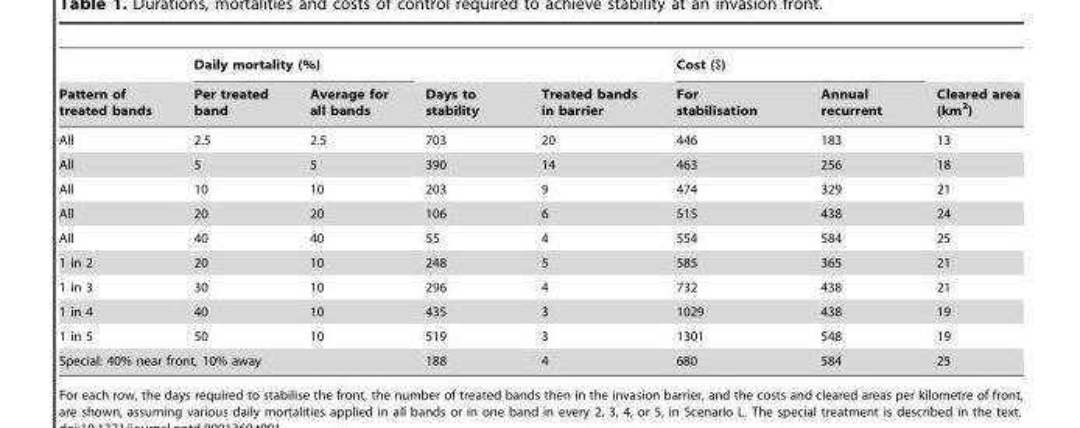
<table><thead><tr><td rowspan="2">Pattern of treated bands</td><td colspan="2">Daily mortality (%)</td><td rowspan="2">Days to stability</td><td rowspan="2">Treated bands in barrier</td><td colspan="2">Cost ($)</td><td rowspan="2">Cleared area (km<sup>2</sup>)</td></tr><tr><td>Per treated band</td><td>Average for all bands</td><td>For stabilisation</td><td>Annual recurrent</td></tr></thead><tbody><tr><td>All</td><td>2.5</td><td>2.5</td><td>703</td><td>20</td><td>446</td><td>183</td><td>13</td></tr><tr><td>All</td><td>5</td><td>5</td><td>390</td><td>14</td><td>463</td><td>256</td><td>18</td></tr><tr><td>All</td><td>10</td><td>10</td><td>203</td><td>9</td><td>474</td><td>329</td><td>21</td></tr><tr><td>All</td><td>20</td><td>20</td><td>106</td><td>6</td><td>515</td><td>438</td><td>24</td></tr><tr><td>All</td><td>40</td><td>40</td><td>55</td><td>4</td><td>554</td><td>584</td><td>25</td></tr><tr><td>1 in 2</td><td>20</td><td>10</td><td>248</td><td>5</td><td>585</td><td>365</td><td>21</td></tr><tr><td>1 in 3</td><td>30</td><td>10</td><td>296</td><td>4</td><td>732</td><td>438</td><td>21</td></tr><tr><td>1 in 4</td><td>40</td><td>10</td><td>435</td><td>3</td><td>1029</td><td>438</td><td>19</td></tr><tr><td>1 in 5</td><td>50</td><td>10</td><td>519</td><td>3</td><td>1301</td><td>548</td><td>19</td></tr><tr><td colspan="3">Special: 40% near front, 10% away</td><td>188</td><td>4</td><td>680</td><td>584</td><td>25</td></tr></tbody></table>